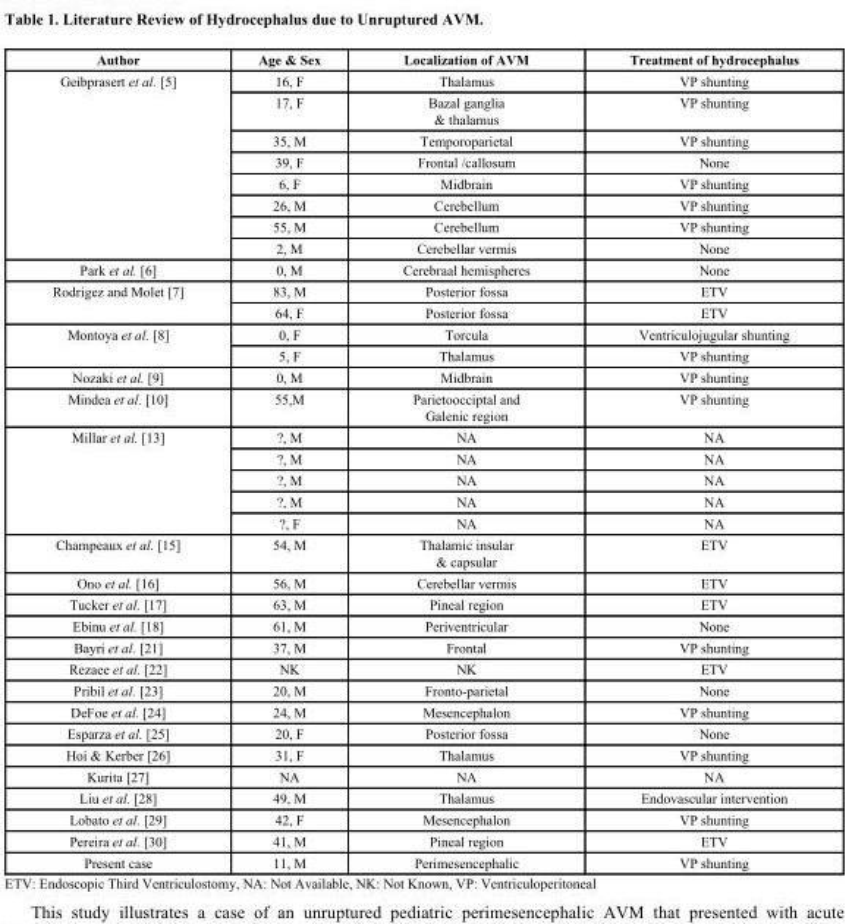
<table><thead><tr><td>Author</td><td>Age &amp; Sex</td><td>Localization of AVM</td><td>Treatment of hydrocephalus</td></tr></thead><tbody><tr><td rowspan="8">Geibprasert et al. [5]</td><td>16, F</td><td>Thalamus</td><td>VP shunting</td></tr><tr><td>17, F</td><td>Bazal ganglia &amp; thalamus</td><td>VP shunting</td></tr><tr><td>35, M</td><td>Temporoparietal</td><td>VP shunting</td></tr><tr><td>39, F</td><td>Frontal /callosum</td><td>None</td></tr><tr><td>6, F</td><td>Midbrain</td><td>VP shunting</td></tr><tr><td>26, M</td><td>Cerebellum</td><td>VP shunting</td></tr><tr><td>55, M</td><td>Cerebellum</td><td>VP shunting</td></tr><tr><td>2, M</td><td>Cerebellar vermis</td><td>None</td></tr><tr><td>Park et al. [6]</td><td>0, M</td><td>Cerebraal hemispheres</td><td>None</td></tr><tr><td rowspan="2">Rodrigez and Molet [7]</td><td>83, M</td><td>Posterior fossa</td><td>ETV</td></tr><tr><td>64, F</td><td>Posterior fossa</td><td>ETV</td></tr><tr><td rowspan="2">Montoya et al. [8]</td><td>0, F</td><td>Torcula</td><td>Ventriculojugular shunting</td></tr><tr><td>5, F</td><td>Thalamus</td><td>VP shunting</td></tr><tr><td>Nozaki et al. [9]</td><td>0, M</td><td>Midbrain</td><td>VP shunting</td></tr><tr><td>Mindea et al. [10]</td><td>55,M</td><td>Parietoocciptal and Galenic region</td><td>VP shunting</td></tr><tr><td rowspan="5">Millar et al. [13]</td><td>?, M</td><td>NA</td><td>NA</td></tr><tr><td>?, M</td><td>NA</td><td>NA</td></tr><tr><td>?, M</td><td>NA</td><td>NA</td></tr><tr><td>?, M</td><td>NA</td><td>NA</td></tr><tr><td>?, F</td><td>NA</td><td>NA</td></tr><tr><td>Champeaux et al. [15]</td><td>54, M</td><td>Thalamic insular &amp; capsular</td><td>ETV</td></tr><tr><td>Ono et al. [16]</td><td>56, M</td><td>Cerebellar vermis</td><td>ETV</td></tr><tr><td>Tucker et al. [17]</td><td>63, M</td><td>Pineal region</td><td>ETV</td></tr><tr><td>Ebinu et al. [18]</td><td>61, M</td><td>Periventricular</td><td>None</td></tr><tr><td>Bayri et al. [21]</td><td>37, M</td><td>Frontal</td><td>VP shunting</td></tr><tr><td>Rezaee et al. [22]</td><td>NK</td><td>NK</td><td>ETV</td></tr><tr><td>Pribil et al. [23]</td><td>20, M</td><td>Fronto-parietal</td><td>None</td></tr><tr><td>DeFoe et al. [24]</td><td>24, M</td><td>Mesencephalon</td><td>VP shunting</td></tr><tr><td>Esparza et al. [25]</td><td>20, F</td><td>Posterior fossa</td><td>None</td></tr><tr><td>Hoi &amp; Kerber [26]</td><td>31, F</td><td>Thalamus</td><td>VP shunting</td></tr><tr><td>Kurita [27]</td><td>NA</td><td>NA</td><td>NA</td></tr><tr><td>Liu et al. [28]</td><td>49, M</td><td>Thalamus</td><td>Endovascular intervention</td></tr><tr><td>Lobato et al. [29]</td><td>42, F</td><td>Mesencephalon</td><td>VP shunting</td></tr><tr><td>Pereira et al. [30]</td><td>41, M</td><td>Pineal region</td><td>ETV</td></tr><tr><td>Present case</td><td>11, M</td><td>Perimesencephalic</td><td>VP shunting</td></tr></tbody></table>